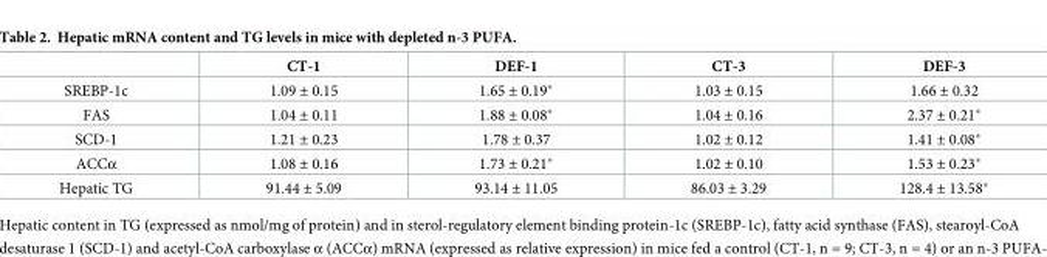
<table><thead><tr><td></td><td>CT-1</td><td>DEF-1</td><td>CT-3</td><td>DEF-3</td></tr></thead><tbody><tr><td>SREBP-1c</td><td>1.09 ± 0.15</td><td>1.65 ± 0.19*</td><td>1.03 ± 0.15</td><td>1.66 ± 0.32</td></tr><tr><td>FAS</td><td>1.04 ± 0.11</td><td>1.88 ± 0.08*</td><td>1.04 ± 0.16</td><td>2.37 ± 0.21*</td></tr><tr><td>SCD-1</td><td>1.21 ± 0.23</td><td>1.78 ± 0.37</td><td>1.02 ± 0.12</td><td>1.41 ± 0.08*</td></tr><tr><td>ACCα</td><td>1.08 ± 0.16</td><td>1.73 ± 0.21*</td><td>1.02 ± 0.10</td><td>1.53 ± 0.23*</td></tr><tr><td>Hepatic TG</td><td>91.44 ± 5.09</td><td>93.14 ± 11.05</td><td>86.03 ± 3.29</td><td>128.4 ± 13.58*</td></tr></tbody></table>